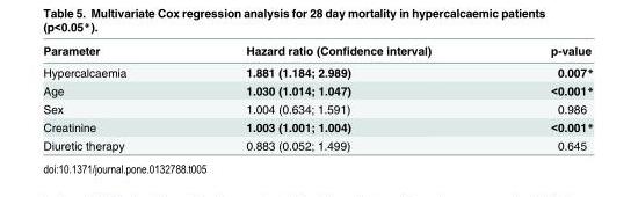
<table><thead><tr><td>Parameter</td><td>Hazard ratio (Confidence interval)</td><td>p-value</td></tr></thead><tbody><tr><td>Hypercalcaemia</td><td>1.881 (1.184; 2.989)</td><td>0.007*</td></tr><tr><td>Age</td><td>1.030 (1.014; 1.047)</td><td>&lt;0.001*</td></tr><tr><td>Sex</td><td>1.004 (0.634; 1.591)</td><td>0.986</td></tr><tr><td>Creatinine</td><td>1.003 (1.001; 1.004)</td><td>&lt;0.001*</td></tr><tr><td>Diuretic therapy</td><td>0.883 (0.052; 1.499)</td><td>0.645</td></tr></tbody></table>